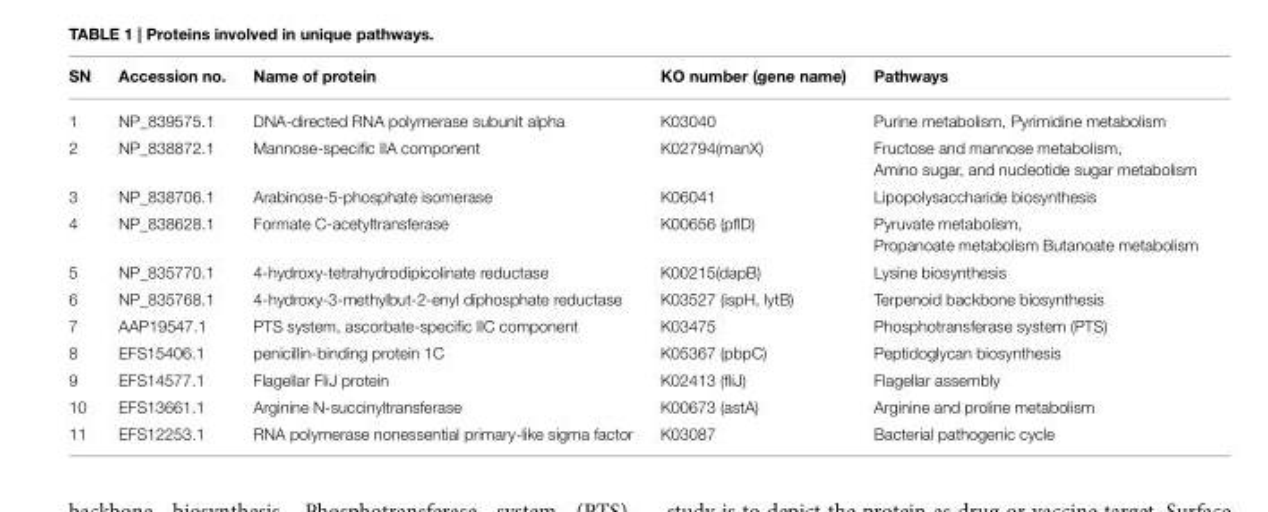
<table><thead><tr><td>SN</td><td>Accession no.</td><td>Name of protein</td><td>KO number (gene name)</td><td>Pathways</td></tr></thead><tbody><tr><td>1</td><td>NP_839575.1</td><td>DNA-directed RNA polymerase subunit alpha</td><td>K03040</td><td>Purine metabolism, Pyrimidine metabolism</td></tr><tr><td>2</td><td>NP_838872.1</td><td>Mannose-specific IIA component</td><td>K02794(manX)</td><td>Fructose and mannose metabolism, Amino sugar, and nucleotide sugar metabolism</td></tr><tr><td>3</td><td>NP_838706.1</td><td>Arabinose-5-phosphate isomerase</td><td>K06041</td><td>Lipopolysaccharide biosynthesis</td></tr><tr><td>4</td><td>NP_838628.1</td><td>Formate C-acetyltransferase</td><td>K00656 (pflD)</td><td>Pyruvate metabolism, Propanoate metabolism Butanoate metabolism</td></tr><tr><td>5</td><td>NP_835770.1</td><td>4-hydroxy-tetrahydrodipicolinate reductase</td><td>K00215(dapB)</td><td>Lysine biosynthesis</td></tr><tr><td>6</td><td>NP_835768.1</td><td>4-hydroxy-3-methylbut-2-enyl diphosphate reductase</td><td>K03527 (ispH, lytB)</td><td>Terpenoid backbone biosynthesis</td></tr><tr><td>7</td><td>AAP19547.1</td><td>PTS system, ascorbate-specific IIC component</td><td>K03475</td><td>Phosphotransferase system (PTS)</td></tr><tr><td>8</td><td>EFS15406.1</td><td>penicillin-binding protein 1C</td><td>K05367 (pbpC)</td><td>Peptidoglycan biosynthesis</td></tr><tr><td>9</td><td>EFS14577.1</td><td>Flagellar FliJ protein</td><td>K02413 (fliJ)</td><td>Flagellar assembly</td></tr><tr><td>10</td><td>EFS13661.1</td><td>Arginine N-succinyltransferase</td><td>K00673 (astA)</td><td>Arginine and proline metabolism</td></tr><tr><td>11</td><td>EFS12253.1</td><td>RNA polymerase nonessential primary-like sigma factor</td><td>K03087</td><td>Bacterial pathogenic cycle</td></tr></tbody></table>